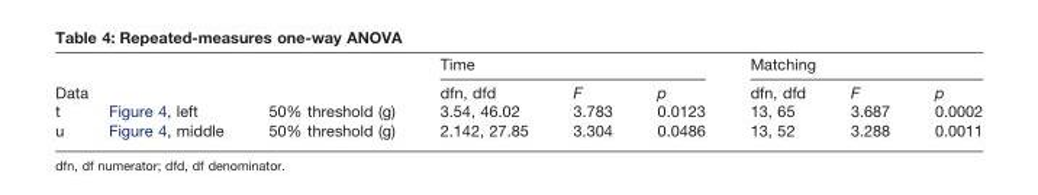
<table><thead><tr><td rowspan="2" colspan="3">Data</td><td colspan="3">Time</td><td colspan="3">Matching</td></tr><tr><td rowspan="2">dfn, dfd 3.54, 46.02</td><td rowspan="2">F 3.783</td><td rowspan="2">p 0.0123</td><td rowspan="2">dfn, dfd 13, 65</td><td rowspan="2">F 3.687</td><td rowspan="2">p 0.0002</td></tr><tr><td>t</td><td>Figure 4, left</td><td>50% threshold (g)</td></tr></thead><tbody><tr><td>u</td><td>Figure 4, middle</td><td>50% threshold (g)</td><td>2.142, 27.85</td><td>3.304</td><td>0.0486</td><td>13, 52</td><td>3.288</td><td>0.0011</td></tr></tbody></table>